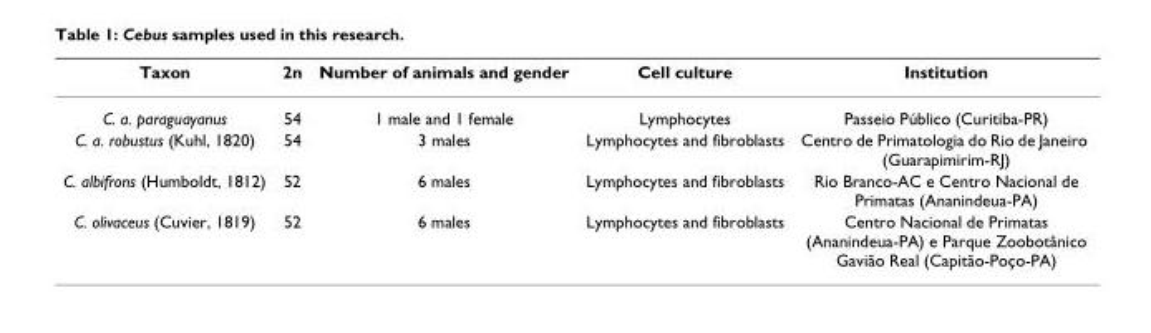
<table><thead><tr><td>Taxon</td><td>2n</td><td>Number of animals and gender</td><td>Cell culture</td><td>Institution</td></tr></thead><tbody><tr><td>C. a. paraguayanus</td><td>54</td><td>1 male and 1 female</td><td>Lymphocytes</td><td>Passeio Público (Curitiba-PR)</td></tr><tr><td>C. a. robustus (Kuhl, 1820)</td><td>54</td><td>3 males</td><td>Lymphocytes and fibroblasts</td><td>Centro de Primatologia do Rio de Janeiro (Guarapimirim-RJ)</td></tr><tr><td>C. albifrons (Humboldt, 1812)</td><td>52</td><td>6 males</td><td>Lymphocytes and fibroblasts</td><td>Rio Branco-AC e Centro Nacional de Primatas (Ananindeua-PA)</td></tr><tr><td>C. olivaceus (Cuvier, 1819)</td><td>52</td><td>6 males</td><td>Lymphocytes and fibroblasts</td><td>Centro Nacional de Primatas (Ananindeua-PA) e Parque Zoobotânico Gavião Real (Capitão-Poço-PA)</td></tr></tbody></table>